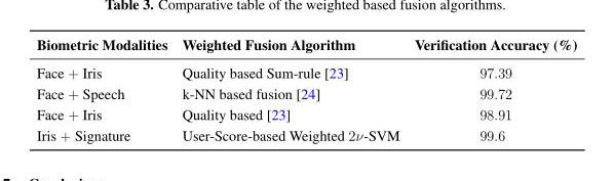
<table><thead><tr><td>Biometric Modalities</td><td>Weighted Fusion Algorithm</td><td>Verification Accuracy (%)</td></tr></thead><tbody><tr><td>Face + Iris</td><td>Quality based Sum-rule [23]</td><td>97.39</td></tr><tr><td>Face + Speech</td><td>k-NN based fusion [24]</td><td>99.72</td></tr><tr><td>Face + Iris</td><td>Quality based [23]</td><td>98.91</td></tr><tr><td>Iris + Signature</td><td>User-Score-based Weighted 2ν-SVM</td><td>99.6</td></tr></tbody></table>